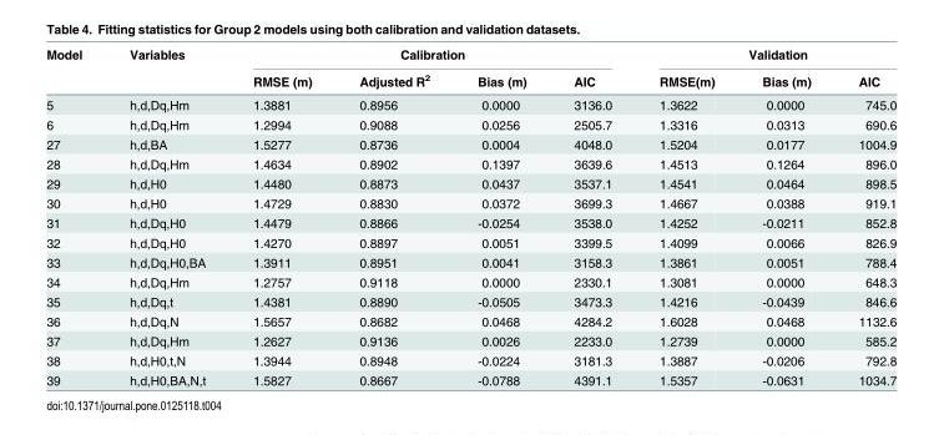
<table><thead><tr><td rowspan="2">Model</td><td rowspan="2">Variables</td><td colspan="4">Calibration</td><td colspan="3">Validation</td></tr><tr><td>RMSE (m)</td><td>Adjusted R<sup>2</sup></td><td>Bias (m)</td><td>AIC</td><td>RMSE(m)</td><td>Bias (m)</td><td>AIC</td></tr></thead><tbody><tr><td>5</td><td>h,d,Dq,Hm</td><td>1.3881</td><td>0.8956</td><td>0.0000</td><td>3136.0</td><td>1.3622</td><td>0.0000</td><td>745.0</td></tr><tr><td>6</td><td>h,d,Dq,Hm</td><td>1.2994</td><td>0.9088</td><td>0.0256</td><td>2505.7</td><td>1.3316</td><td>0.0313</td><td>690.6</td></tr><tr><td>27</td><td>h,d,BA</td><td>1.5277</td><td>0.8736</td><td>0.0004</td><td>4048.0</td><td>1.5204</td><td>0.0177</td><td>1004.9</td></tr><tr><td>28</td><td>h,d,Dq,Hm</td><td>1.4634</td><td>0.8902</td><td>0.1397</td><td>3639.6</td><td>1.4513</td><td>0.1264</td><td>896.0</td></tr><tr><td>29</td><td>h,d,H0</td><td>1.4480</td><td>0.8873</td><td>0.0437</td><td>3537.1</td><td>1.4541</td><td>0.0464</td><td>898.5</td></tr><tr><td>30</td><td>h,d,H0</td><td>1.4729</td><td>0.8830</td><td>0.0372</td><td>3699.3</td><td>1.4667</td><td>0.0388</td><td>919.1</td></tr><tr><td>31</td><td>h,d,Dq,H0</td><td>1.4479</td><td>0.8866</td><td>-0.0254</td><td>3538.0</td><td>1.4252</td><td>-0.0211</td><td>852.8</td></tr><tr><td>32</td><td>h,d,Dq,H0</td><td>1.4270</td><td>0.8897</td><td>0.0051</td><td>3399.5</td><td>1.4099</td><td>0.0066</td><td>826.9</td></tr><tr><td>33</td><td>h,d,Dq,H0,BA</td><td>1.3911</td><td>0.8951</td><td>0.0041</td><td>3158.3</td><td>1.3861</td><td>0.0051</td><td>788.4</td></tr><tr><td>34</td><td>h,d,Dq,Hm</td><td>1.2757</td><td>0.9118</td><td>0.0000</td><td>2330.1</td><td>1.3081</td><td>0.0000</td><td>648.3</td></tr><tr><td>35</td><td>h,d,Dq,t</td><td>1.4381</td><td>0.8890</td><td>-0.0505</td><td>3473.3</td><td>1.4216</td><td>-0.0439</td><td>846.6</td></tr><tr><td>36</td><td>h,d,Dq,N</td><td>1.5657</td><td>0.8682</td><td>0.0468</td><td>4284.2</td><td>1.6028</td><td>0.0468</td><td>1132.6</td></tr><tr><td>37</td><td>h,d,Dq,Hm</td><td>1.2627</td><td>0.9136</td><td>0.0026</td><td>2233.0</td><td>1.2739</td><td>0.0000</td><td>585.2</td></tr><tr><td>38</td><td>h,d,H0,t,N</td><td>1.3944</td><td>0.8948</td><td>-0.0224</td><td>3181.3</td><td>1.3887</td><td>-0.0206</td><td>792.8</td></tr><tr><td>39</td><td>h,d,H0,BA,N,t</td><td>1.5827</td><td>0.8667</td><td>-0.0788</td><td>4391.1</td><td>1.5357</td><td>-0.0631</td><td>1034.7</td></tr></tbody></table>